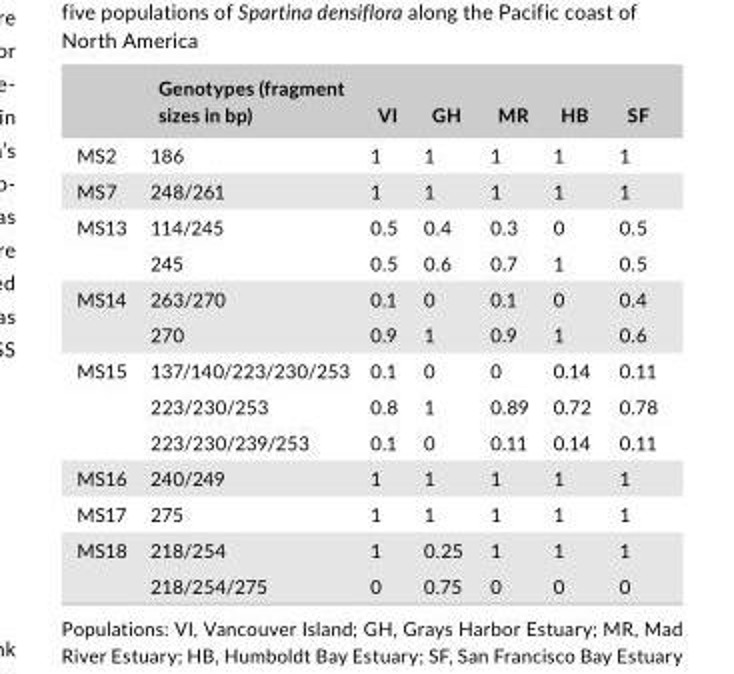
<table><thead><tr><td></td><td>Genotypes (fragment sizes in bp)</td><td>VI</td><td>GH</td><td>MR</td><td>HB</td><td>SF</td></tr></thead><tbody><tr><td>MS2</td><td>186</td><td>1</td><td>1</td><td>1</td><td>1</td><td>1</td></tr><tr><td>MS7</td><td>248/261</td><td>1</td><td>1</td><td>1</td><td>1</td><td>1</td></tr><tr><td rowspan="2">MS13</td><td>114/245</td><td>0.5</td><td>0.4</td><td>0.3</td><td>0</td><td>0.5</td></tr><tr><td>245</td><td>0.5</td><td>0.6</td><td>0.7</td><td>1</td><td>0.5</td></tr><tr><td rowspan="2">MS14</td><td>263/270</td><td>0.1</td><td>0</td><td>0.1</td><td>0</td><td>0.4</td></tr><tr><td>270</td><td>0.9</td><td>1</td><td>0.9</td><td>1</td><td>0.6</td></tr><tr><td rowspan="3">MS15</td><td>137/140/223/230/253</td><td>0.1</td><td>0</td><td>0</td><td>0.14</td><td>0.11</td></tr><tr><td>223/230/253</td><td>0.8</td><td>1</td><td>0.89</td><td>0.72</td><td>0.78</td></tr><tr><td>223/230/239/253</td><td>0.1</td><td>0</td><td>0.11</td><td>0.14</td><td>0.11</td></tr><tr><td>MS16</td><td>240/249</td><td>1</td><td>1</td><td>1</td><td>1</td><td>1</td></tr><tr><td>MS17</td><td>275</td><td>1</td><td>1</td><td>1</td><td>1</td><td>1</td></tr><tr><td rowspan="2">MS18</td><td>218/254</td><td>1</td><td>0.25</td><td>1</td><td>1</td><td>1</td></tr><tr><td>218/254/275</td><td>0</td><td>0.75</td><td>0</td><td>0</td><td>0</td></tr></tbody></table>